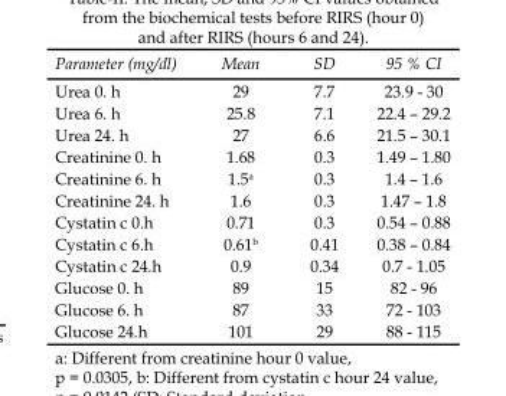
<table><thead><tr><td>Parameter (mg/dl)</td><td>Mean</td><td>SD</td><td>95 % CI</td></tr></thead><tbody><tr><td>Urea 0. h</td><td>29</td><td>7.7</td><td>23.9 - 30</td></tr><tr><td>Urea 6. h</td><td>25.8</td><td>7.1</td><td>22.4 – 29.2</td></tr><tr><td>Urea 24. h</td><td>27</td><td>6.6</td><td>21.5 – 30.1</td></tr><tr><td>Creatinine 0. h</td><td>1.68</td><td>0.3</td><td>1.49 – 1.80</td></tr><tr><td>Creatinine 6. h</td><td>1.5<sup>a</sup></td><td>0.3</td><td>1.4 – 1.6</td></tr><tr><td>Creatinine 24. h</td><td>1.6</td><td>0.3</td><td>1.47 – 1.8</td></tr><tr><td>Cystatin c 0.h</td><td>0.71</td><td>0.3</td><td>0.54 – 0.88</td></tr><tr><td>Cystatin c 6.h</td><td>0.61<sup>b</sup></td><td>0.41</td><td>0.38 – 0.84</td></tr><tr><td>Cystatin c 24.h</td><td>0.9</td><td>0.34</td><td>0.7 - 1.05</td></tr><tr><td>Glucose 0. h</td><td>89</td><td>15</td><td>82 - 96</td></tr><tr><td>Glucose 6. h</td><td>87</td><td>33</td><td>72 - 103</td></tr><tr><td>Glucose 24.h</td><td>101</td><td>29</td><td>88 - 115</td></tr></tbody></table>